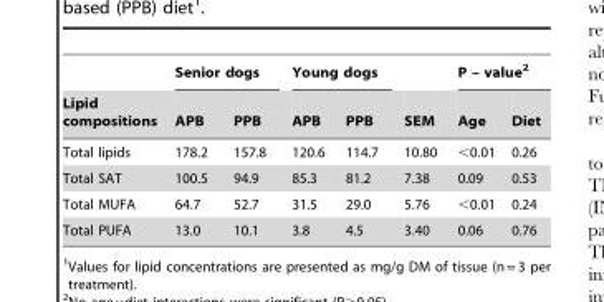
<table><thead><tr><td rowspan="2">Lipid compositions</td><td colspan="2">Senior dogs</td><td colspan="2">Young dogs</td><td rowspan="2">SEM</td><td colspan="2">P – value<sup>2</sup></td></tr><tr><td>APB</td><td>PPB</td><td>APB</td><td>PPB</td><td>Age</td><td>Diet</td></tr></thead><tbody><tr><td>Total lipids</td><td>178.2</td><td>157.8</td><td>120.6</td><td>114.7</td><td>10.80</td><td>&lt;0.01</td><td>0.26</td></tr><tr><td>Total SAT</td><td>100.5</td><td>94.9</td><td>85.3</td><td>81.2</td><td>7.38</td><td>0.09</td><td>0.53</td></tr><tr><td>Total MUFA</td><td>64.7</td><td>52.7</td><td>31.5</td><td>29.0</td><td>5.76</td><td>&lt;0.01</td><td>0.24</td></tr><tr><td>Total PUFA</td><td>13.0</td><td>10.1</td><td>3.8</td><td>4.5</td><td>3.40</td><td>0.06</td><td>0.76</td></tr></tbody></table>